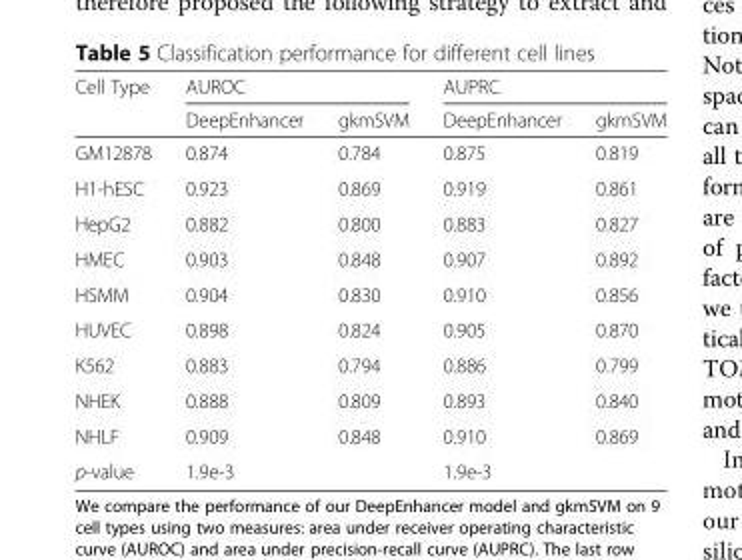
<table><thead><tr><td rowspan="2">Cell Type</td><td colspan="2">AUROC</td><td colspan="2">AUPRC</td></tr><tr><td>DeepEnhancer</td><td>gkmSVM</td><td>DeepEnhancer</td><td>gkmSVM</td></tr></thead><tbody><tr><td>GM12878</td><td>0.874</td><td>0.784</td><td>0.875</td><td>0.819</td></tr><tr><td>H1-hESC</td><td>0.923</td><td>0.869</td><td>0.919</td><td>0.861</td></tr><tr><td>HepG2</td><td>0.882</td><td>0.800</td><td>0.883</td><td>0.827</td></tr><tr><td>HMEC</td><td>0.903</td><td>0.848</td><td>0.907</td><td>0.892</td></tr><tr><td>HSMM</td><td>0.904</td><td>0.830</td><td>0.910</td><td>0.856</td></tr><tr><td>HUVEC</td><td>0.898</td><td>0.824</td><td>0.905</td><td>0.870</td></tr><tr><td>K562</td><td>0.883</td><td>0.794</td><td>0.886</td><td>0.799</td></tr><tr><td>NHEK</td><td>0.888</td><td>0.809</td><td>0.893</td><td>0.840</td></tr><tr><td>NHLF</td><td>0.909</td><td>0.848</td><td>0.910</td><td>0.869</td></tr><tr><td>p-value</td><td colspan="2">1.9e-3</td><td colspan="2">1.9e-3</td></tr></tbody></table>